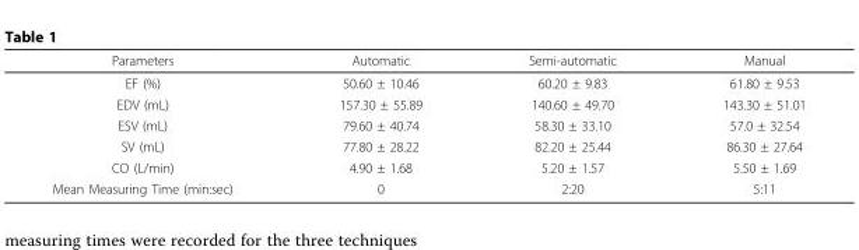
<table><thead><tr><td>Parameters</td><td>Automatic</td><td>Semi-automatic</td><td>Manual</td></tr></thead><tbody><tr><td>EF (%)</td><td>50.60 ± 10.46</td><td>60.20 ± 9.83</td><td>61.80 ± 9.53</td></tr><tr><td>EDV (mL)</td><td>157.30 ± 55.89</td><td>140.60 ± 49.70</td><td>143.30 ± 51.01</td></tr><tr><td>ESV (mL)</td><td>79.60 ± 40.74</td><td>58.30 ± 33.10</td><td>57.0 ± 32.54</td></tr><tr><td>SV (mL)</td><td>77.80 ± 28.22</td><td>82.20 ± 25.44</td><td>86.30 ± 27.64</td></tr><tr><td>CO (L/min)</td><td>4.90 ± 1.68</td><td>5.20 ± 1.57</td><td>5.50 ± 1.69</td></tr><tr><td>Mean Measuring Time (min:sec)</td><td>0</td><td>2:20</td><td>5:11</td></tr></tbody></table>